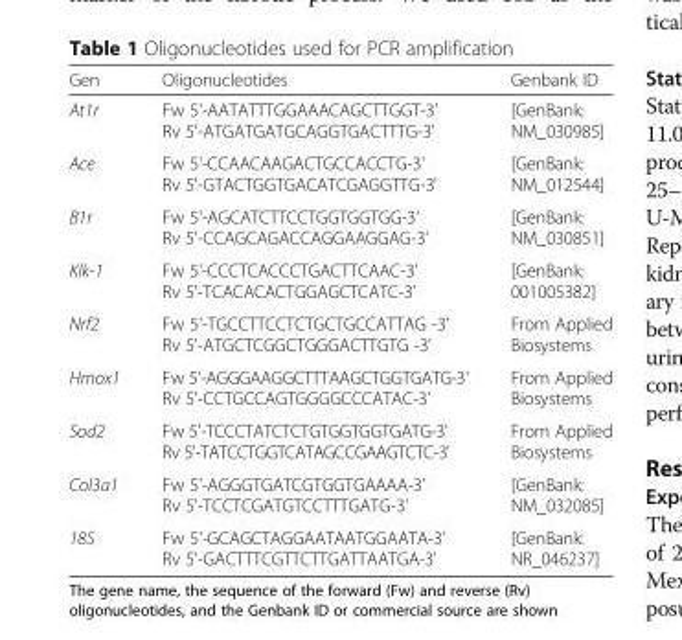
<table><thead><tr><td>Gen</td><td>Oligonucleotides</td><td>Genbank ID</td></tr></thead><tbody><tr><td>At1r</td><td>Fw 5&#x27;-AATATTTGGAAACAGCTTGGT-3&#x27; Rv 5&#x27;-ATGATGATGCAGGTGACTTTG-3&#x27;</td><td>[GenBank: NM_030985]</td></tr><tr><td>Ace</td><td>Fw 5&#x27;-CCAACAAGACTGCCACCTG-3&#x27; Rv 5&#x27;-GTACTGGTGACATCGAGGTTG-3&#x27;</td><td>[GenBank: NM_012544]</td></tr><tr><td>B1r</td><td>Fw 5&#x27;-AGCATCTTCCTGGTGGTGG-3&#x27; Rv 5&#x27;-CCAGCAGACCAGGAAGGAG-3&#x27;</td><td>[GenBank: NM_030851]</td></tr><tr><td>Klk-1</td><td>Fw 5&#x27;-CCCTCACCCTGACTTCAAC-3&#x27; Rv 5&#x27;-TCACACACTGGAGCTCATC-3&#x27;</td><td>[GenBank: 001005382]</td></tr><tr><td>Nrf2</td><td>Fw 5&#x27;-TGCCTTCCTCTGCTGCCATTAG -3&#x27; Rv 5&#x27;-ATGCTCGGCTGGGACTTGTG -3&#x27;</td><td>From Applied Biosystems</td></tr><tr><td>Hmox1</td><td>Fw 5&#x27;-AGGGAAGGCTTTAAGCTGGTGATG-3&#x27; Rv 5&#x27;-CCTGCCAGTGGGGCCCATAC-3&#x27;</td><td>From Applied Biosystems</td></tr><tr><td>Sod2</td><td>Fw 5&#x27;-TCCCTATCTCTGTGGTGGTGATG-3&#x27; Rv 5&#x27;-TATCCTGGTCATAGCCGAAGTCTC-3&#x27;</td><td>From Applied Biosystems</td></tr><tr><td>Col3a1</td><td>Fw 5&#x27;-AGGGTGATCGTGGTGAAAA-3&#x27; Rv 5&#x27;-TCCTCGATGTCCTTTGATG-3&#x27;</td><td>[GenBank: NM_032085]</td></tr><tr><td>18S</td><td>Fw 5&#x27;-GCAGCTAGGAATAATGGAATA-3&#x27; Rv 5&#x27;-GACTTTCGTTCTTGATTAATGA-3&#x27;</td><td>[GenBank: NR_046237]</td></tr></tbody></table>